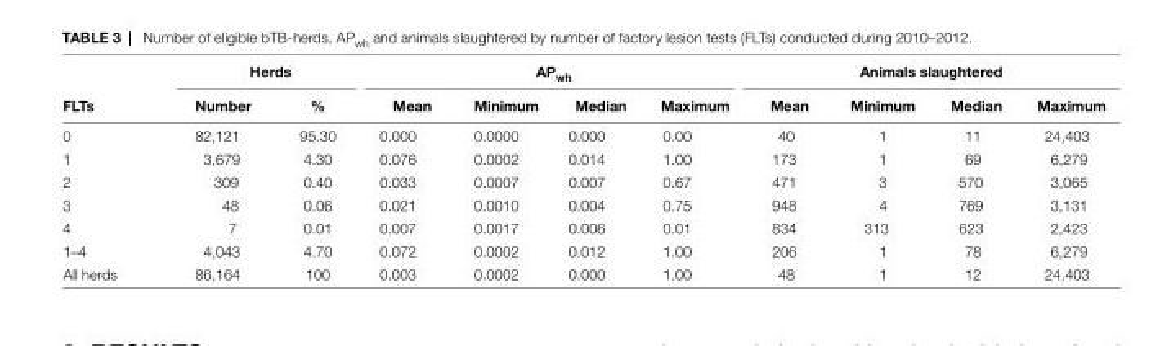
<table><thead><tr><td rowspan="2">FlTs</td><td colspan="2">herds</td><td colspan="4">aP<sub>wh</sub></td><td colspan="4">animals slaughtered</td></tr><tr><td>number</td><td>%</td><td>Mean</td><td>Minimum</td><td>Median</td><td>Maximum</td><td>Mean</td><td>Minimum</td><td>Median</td><td>Maximum</td></tr></thead><tbody><tr><td>0</td><td>82,121</td><td>95.30</td><td>0.000</td><td>0.0000</td><td>0.000</td><td>0.00</td><td>40</td><td>1</td><td>11</td><td>24,403</td></tr><tr><td>1</td><td>3,679</td><td>4.30</td><td>0.076</td><td>0.0002</td><td>0.014</td><td>1.00</td><td>173</td><td>1</td><td>69</td><td>6,279</td></tr><tr><td>2</td><td>309</td><td>0.40</td><td>0.033</td><td>0.0007</td><td>0.007</td><td>0.67</td><td>471</td><td>3</td><td>570</td><td>3,065</td></tr><tr><td>3</td><td>48</td><td>0.06</td><td>0.021</td><td>0.0010</td><td>0.004</td><td>0.75</td><td>948</td><td>4</td><td>769</td><td>3,131</td></tr><tr><td>4</td><td>7</td><td>0.01</td><td>0.007</td><td>0.0017</td><td>0.006</td><td>0.01</td><td>834</td><td>313</td><td>623</td><td>2,423</td></tr><tr><td>1–4</td><td>4,043</td><td>4.70</td><td>0.072</td><td>0.0002</td><td>0.012</td><td>1.00</td><td>206</td><td>1</td><td>78</td><td>6,279</td></tr><tr><td>All herds</td><td>86,164</td><td>100</td><td>0.003</td><td>0.0002</td><td>0.000</td><td>1.00</td><td>48</td><td>1</td><td>12</td><td>24,403</td></tr></tbody></table>